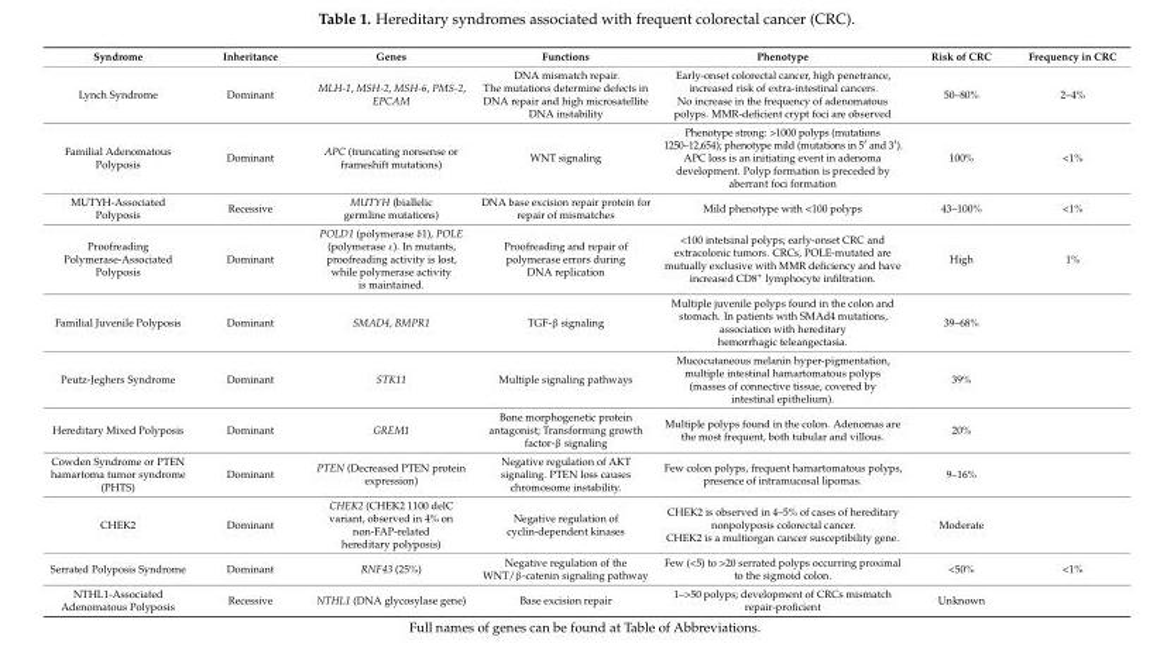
<table><thead><tr><td>Syndrome</td><td>Inheritance</td><td>Genes</td><td>Functions</td><td>Phenotype</td><td>Risk of CRC</td><td>Frequency in CRC</td></tr></thead><tbody><tr><td>Lynch Syndrome</td><td>Dominant</td><td>MLH-1, MSH-2, MSH-6, PMS-2, EPCAM</td><td>DNA mismatch repair. The mutations determine defects in DNA repair and high microsatellite DNA instability</td><td>Early-onset colorectal cancer, high penetrance, increased risk of extra-intestinal cancers. No increase in the frequency of adenomatous polyps. MMR-deficient crypt foci are observed</td><td>50–80%</td><td>2–4%</td></tr><tr><td>Familial Adenomatous Polyposis</td><td>Dominant</td><td>APC (truncating nonsense or frameshift mutations)</td><td>WNT signaling</td><td>Phenotype strong: &gt;1000 polyps (mutations 1250–12,654); phenotype mild (mutations in 5′ and 3′). APC loss is an initiating event in adenoma development. Polyp formation is preceded by aberrant foci formation</td><td>100%</td><td>&lt;1%</td></tr><tr><td>MUTYH-Associated Polyposis</td><td>Recessive</td><td>MUTYH (biallelic germline mutations)</td><td>DNA base excision repair protein for repair of mismatches</td><td>Mild phenotype with &lt;100 polyps</td><td>43–100%</td><td>&lt;1%</td></tr><tr><td>Proofreading Polymerase-Associated Polyposis</td><td>Dominant</td><td>POLD1 (polymerase δ1), POLE (polymerase ε). In mutants, proofreading activity is lost, while polymerase activity is maintained.</td><td>Proofreading and repair of polymerase errors during DNA replication</td><td>&lt;100 intetsinal polyps; early-onset CRC and extracolonic tumors. CRCs, POLE-mutated are mutually exclusive with MMR deficiency and have increased CD8<sup>+</sup> lymphocyte infiltration.</td><td>High</td><td>1%</td></tr><tr><td>Familial Juvenile Polyposis</td><td>Dominant</td><td>SMAD4, BMPR1</td><td>TGF-β signaling</td><td>Multiple juvenile polyps found in the colon and stomach. In patients with SMAd4 mutations, association with hereditary hemorrhagic teleangectasia.</td><td>39–68%</td><td></td></tr><tr><td>Peutz-Jeghers Syndrome</td><td>Dominant</td><td>STK11</td><td>Multiple signaling pathways</td><td>Mucocutaneous melanin hyper-pigmentation, multiple intestinal hamartomatous polyps (masses of connective tissue, covered by intestinal epithelium).</td><td>39%</td><td></td></tr><tr><td>Hereditary Mixed Polyposis</td><td>Dominant</td><td>GREM1</td><td>Bone morphogenetic protein antagonist; Transforming growth factor-β signaling</td><td>Multiple polyps found in the colon. Adenomas are the most frequent, both tubular and villous.</td><td>20%</td><td></td></tr><tr><td>Cowden Syndrome or PTEN hamartoma tumor syndrome (PHTS)</td><td>Dominant</td><td>PTEN (Decreased PTEN protein expression)</td><td>Negative regulation of AKT signaling. PTEN loss causes chromosome instability.</td><td>Few colon polyps, frequent hamartomatous polyps, presence of intramucosal lipomas.</td><td>9–16%</td><td></td></tr><tr><td>CHEK2</td><td>Dominant</td><td>CHEK2 (CHEK2 1100 delC variant, observed in 4% on non-FAP-related hereditary polyposis)</td><td>Negative regulation of cyclin-dependent kinases</td><td>CHEK2 is observed in 4–5% of cases of hereditary nonpolyposis colorectal cancer. CHEK2 is a multiorgan cancer susceptibility gene.</td><td>Moderate</td><td></td></tr><tr><td>Serrated Polyposis Syndrome</td><td>Dominant</td><td>RNF43 (25%)</td><td>Negative regulation of the WNT/β-catenin signaling pathway</td><td>Few (&lt;5) to &gt;20 serrated polyps occurring proximal to the sigmoid colon.</td><td>&lt;50%</td><td>&lt;1%</td></tr><tr><td>NTHL1-Associated Adenomatous Polyposis</td><td>Recessive</td><td>NTHL1 (DNA glycosylase gene)</td><td>Base excision repair</td><td>1–&gt;50 polyps; development of CRCs mismatch repair-proficient</td><td>Unknown</td><td></td></tr></tbody></table>